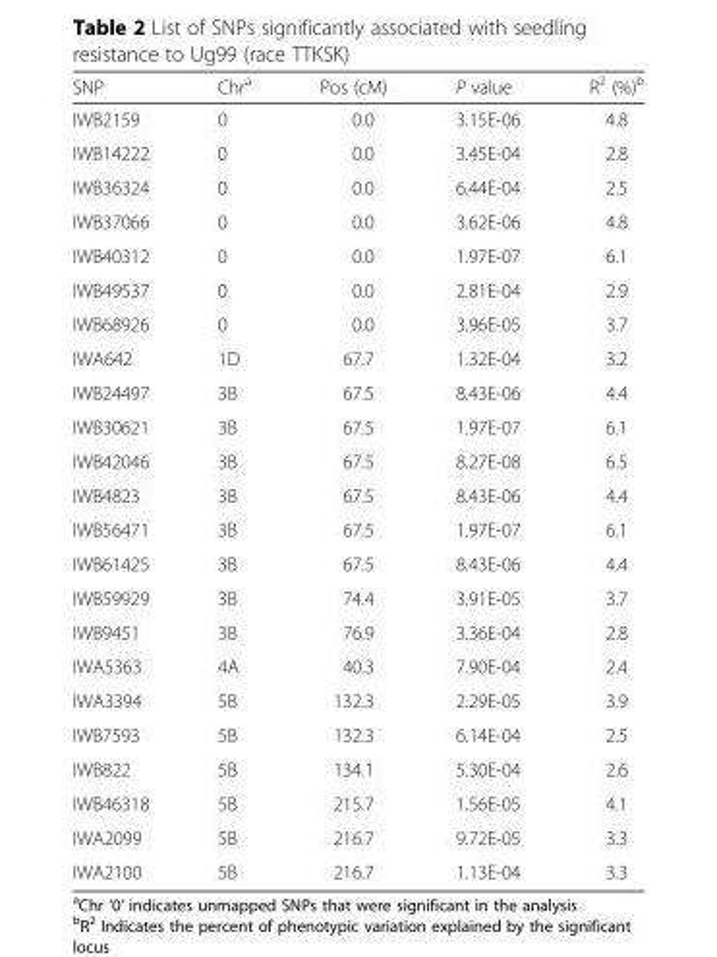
<table><thead><tr><td>SNP</td><td>Chr<sup>a</sup></td><td>Pos (cM)</td><td>P value</td><td>R<sup>2</sup> (%)<sup>b</sup></td></tr></thead><tbody><tr><td>IWB2159</td><td>0</td><td>0.0</td><td>3.15E-06</td><td>4.8</td></tr><tr><td>IWB14222</td><td>0</td><td>0.0</td><td>3.45E-04</td><td>2.8</td></tr><tr><td>IWB36324</td><td>0</td><td>0.0</td><td>6.44E-04</td><td>2.5</td></tr><tr><td>IWB37066</td><td>0</td><td>0.0</td><td>3.62E-06</td><td>4.8</td></tr><tr><td>IWB40312</td><td>0</td><td>0.0</td><td>1.97E-07</td><td>6.1</td></tr><tr><td>IWB49537</td><td>0</td><td>0.0</td><td>2.81E-04</td><td>2.9</td></tr><tr><td>IWB68926</td><td>0</td><td>0.0</td><td>3.96E-05</td><td>3.7</td></tr><tr><td>IWA642</td><td>1D</td><td>67.7</td><td>1.32E-04</td><td>3.2</td></tr><tr><td>IWB24497</td><td>3B</td><td>67.5</td><td>8.43E-06</td><td>4.4</td></tr><tr><td>IWB30621</td><td>3B</td><td>67.5</td><td>1.97E-07</td><td>6.1</td></tr><tr><td>IWB42046</td><td>3B</td><td>67.5</td><td>8.27E-08</td><td>6.5</td></tr><tr><td>IWB4823</td><td>3B</td><td>67.5</td><td>8.43E-06</td><td>4.4</td></tr><tr><td>IWB56471</td><td>3B</td><td>67.5</td><td>1.97E-07</td><td>6.1</td></tr><tr><td>IWB61425</td><td>3B</td><td>67.5</td><td>8.43E-06</td><td>4.4</td></tr><tr><td>IWB59929</td><td>3B</td><td>74.4</td><td>3.91E-05</td><td>3.7</td></tr><tr><td>IWB9451</td><td>3B</td><td>76.9</td><td>3.36E-04</td><td>2.8</td></tr><tr><td>IWA5363</td><td>4A</td><td>40.3</td><td>7.90E-04</td><td>2.4</td></tr><tr><td>IWA3394</td><td>5B</td><td>132.3</td><td>2.29E-05</td><td>3.9</td></tr><tr><td>IWB7593</td><td>5B</td><td>132.3</td><td>6.14E-04</td><td>2.5</td></tr><tr><td>IWB822</td><td>5B</td><td>134.1</td><td>5.30E-04</td><td>2.6</td></tr><tr><td>IWB46318</td><td>5B</td><td>215.7</td><td>1.56E-05</td><td>4.1</td></tr><tr><td>IWA2099</td><td>5B</td><td>216.7</td><td>9.72E-05</td><td>3.3</td></tr><tr><td>IWA2100</td><td>5B</td><td>216.7</td><td>1.13E-04</td><td>3.3</td></tr></tbody></table>